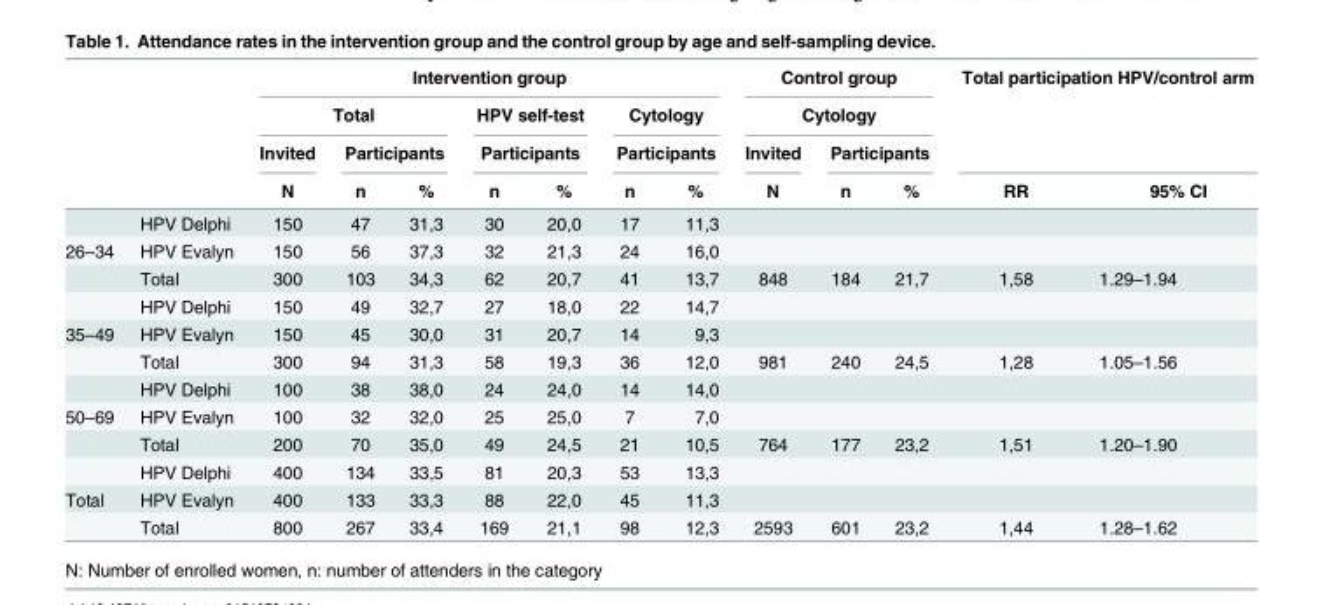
<table><thead><tr><td rowspan="4"></td><td rowspan="4"></td><td colspan="7">Intervention group</td><td rowspan="2" colspan="3">Control group Cytology</td><td colspan="2">Total participation HPV/control arm</td></tr><tr><td colspan="3">Total</td><td rowspan="2" colspan="2">HPV self-test Participants</td><td rowspan="2" colspan="2">Cytology Participants</td><td rowspan="3">RR</td><td rowspan="3">95% CI</td></tr><tr><td rowspan="2">Invited N</td><td colspan="2">Participants</td><td rowspan="2">Invited N</td><td colspan="2">Participants</td></tr><tr><td>n</td><td>%</td><td>n</td><td>%</td><td>n</td><td>%</td><td>n</td><td>%</td></tr></thead><tbody><tr><td></td><td>HPV Delphi</td><td>150</td><td>47</td><td>31,3</td><td>30</td><td>20,0</td><td>17</td><td>11,3</td><td></td><td></td><td></td><td></td><td></td></tr><tr><td rowspan="3">26–34</td><td>HPV Evalyn</td><td>150</td><td>56</td><td>37,3</td><td>32</td><td>21,3</td><td>24</td><td>16,0</td><td></td><td></td><td></td><td></td><td></td></tr><tr><td>Total</td><td>300</td><td>103</td><td>34,3</td><td>62</td><td>20,7</td><td>41</td><td>13,7</td><td>848</td><td>184</td><td>21,7</td><td>1,58</td><td>1.29–1.94</td></tr><tr><td>HPV Delphi</td><td>150</td><td>49</td><td>32,7</td><td>27</td><td>18,0</td><td>22</td><td>14,7</td><td></td><td></td><td></td><td></td><td></td></tr><tr><td rowspan="3">35–49</td><td>HPV Evalyn</td><td>150</td><td>45</td><td>30,0</td><td>31</td><td>20,7</td><td>14</td><td>9,3</td><td></td><td></td><td></td><td></td><td></td></tr><tr><td>Total</td><td>300</td><td>94</td><td>31,3</td><td>58</td><td>19,3</td><td>36</td><td>12,0</td><td>981</td><td>240</td><td>24,5</td><td>1,28</td><td>1.05–1.56</td></tr><tr><td>HPV Delphi</td><td>100</td><td>38</td><td>38,0</td><td>24</td><td>24,0</td><td>14</td><td>14,0</td><td></td><td></td><td></td><td></td><td></td></tr><tr><td rowspan="3">50–69</td><td>HPV Evalyn</td><td>100</td><td>32</td><td>32,0</td><td>25</td><td>25,0</td><td>7</td><td>7,0</td><td></td><td></td><td></td><td></td><td></td></tr><tr><td>Total</td><td>200</td><td>70</td><td>35,0</td><td>49</td><td>24,5</td><td>21</td><td>10,5</td><td>764</td><td>177</td><td>23,2</td><td>1,51</td><td>1.20–1.90</td></tr><tr><td>HPV Delphi</td><td>400</td><td>134</td><td>33,5</td><td>81</td><td>20,3</td><td>53</td><td>13,3</td><td></td><td></td><td></td><td></td><td></td></tr><tr><td rowspan="2">Total</td><td>HPV Evalyn</td><td>400</td><td>133</td><td>33,3</td><td>88</td><td>22,0</td><td>45</td><td>11,3</td><td></td><td></td><td></td><td></td><td></td></tr><tr><td>Total</td><td>800</td><td>267</td><td>33,4</td><td>169</td><td>21,1</td><td>98</td><td>12,3</td><td>2593</td><td>601</td><td>23,2</td><td>1,44</td><td>1.28–1.62</td></tr></tbody></table>